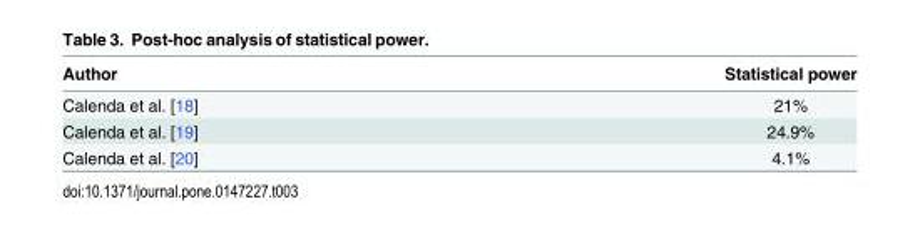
<table><thead><tr><td>Author</td><td>Statistical power</td></tr></thead><tbody><tr><td>Calenda et al. [18]</td><td>21%</td></tr><tr><td>Calenda et al. [19]</td><td>24.9%</td></tr><tr><td>Calenda et al. [20]</td><td>4.1%</td></tr></tbody></table>